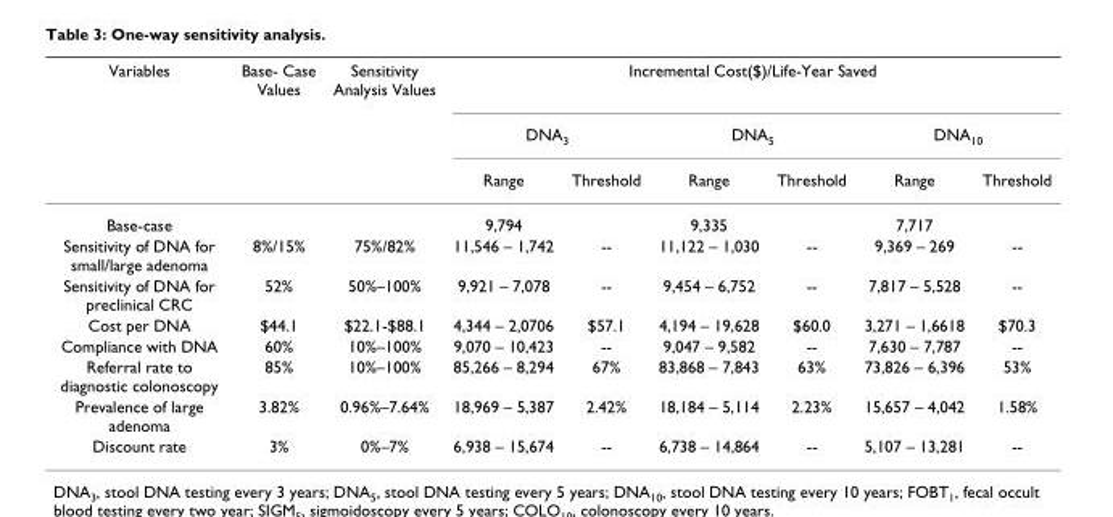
<table><thead><tr><td rowspan="3">Variables</td><td rowspan="3">Base- Case Values</td><td rowspan="3">Sensitivity Analysis Values</td><td colspan="6">Incremental Cost($)/Life-Year Saved</td></tr><tr><td colspan="2">DNA3</td><td colspan="2">DNA5</td><td colspan="2">DNA10</td></tr><tr><td>Range</td><td>Threshold</td><td>Range</td><td>Threshold</td><td>Range</td><td>Threshold</td></tr></thead><tbody><tr><td>Base-case</td><td></td><td></td><td>9,794</td><td></td><td>9,335</td><td></td><td>7,717</td><td></td></tr><tr><td>Sensitivity of DNA for small/large adenoma</td><td>8%/15%</td><td>75%/82%</td><td>11,546 – 1,742</td><td>--</td><td>11,122 – 1,030</td><td>--</td><td>9,369 – 269</td><td>--</td></tr><tr><td>Sensitivity of DNA for preclinical CRC</td><td>52%</td><td>50%–100%</td><td>9,921 – 7,078</td><td>--</td><td>9,454 – 6,752</td><td>--</td><td>7,817 – 5,528</td><td>--</td></tr><tr><td>Cost per DNA</td><td>$44.1</td><td>$22.1-$88.1</td><td>4,344 – 2,0706</td><td>$57.1</td><td>4,194 – 19,628</td><td>$60.0</td><td>3,271 – 1,6618</td><td>$70.3</td></tr><tr><td>Compliance with DNA</td><td>60%</td><td>10%–100%</td><td>9,070 – 10,423</td><td>--</td><td>9,047 – 9,582</td><td>--</td><td>7,630 – 7,787</td><td>--</td></tr><tr><td>Referral rate to diagnostic colonoscopy</td><td>85%</td><td>10%–100%</td><td>85,266 – 8,294</td><td>67%</td><td>83,868 – 7,843</td><td>63%</td><td>73,826 – 6,396</td><td>53%</td></tr><tr><td>Prevalence of large adenoma</td><td>3.82%</td><td>0.96%–7.64%</td><td>18,969 – 5,387</td><td>2.42%</td><td>18,184 – 5,114</td><td>2.23%</td><td>15,657 – 4,042</td><td>1.58%</td></tr><tr><td>Discount rate</td><td>3%</td><td>0%–7%</td><td>6,938 – 15,674</td><td>--</td><td>6,738 – 14,864</td><td>--</td><td>5,107 – 13,281</td><td>--</td></tr></tbody></table>